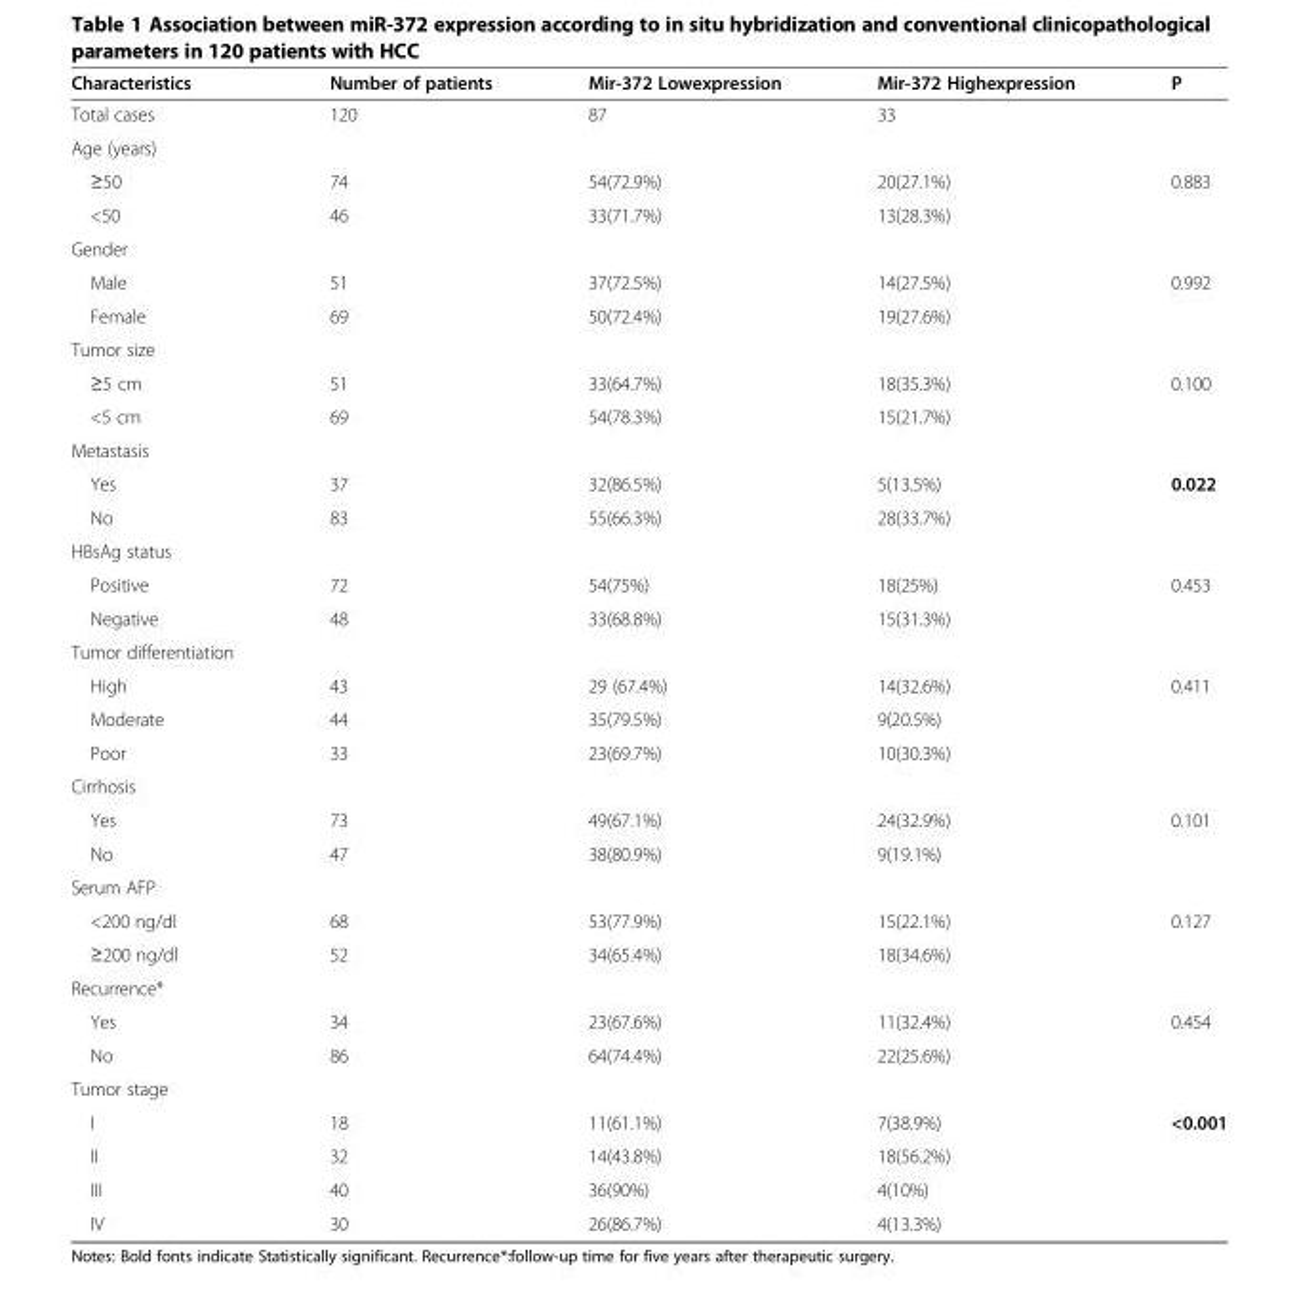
<table><thead><tr><td>Characteristics</td><td>Number of patients</td><td>Mir-372 Lowexpression</td><td>Mir-372 Highexpression</td><td>P</td></tr></thead><tbody><tr><td>Total cases</td><td>120</td><td>87</td><td>33</td><td></td></tr><tr><td colspan="5">Age (years)</td></tr><tr><td>≥50</td><td>74</td><td>54(72.9%)</td><td>20(27.1%)</td><td rowspan="2">0.883</td></tr><tr><td>&lt;50</td><td>46</td><td>33(71.7%)</td><td>13(28.3%)</td></tr><tr><td colspan="5">Gender</td></tr><tr><td>Male</td><td>51</td><td>37(72.5%)</td><td>14(27.5%)</td><td rowspan="2">0.992</td></tr><tr><td>Female</td><td>69</td><td>50(72.4%)</td><td>19(27.6%)</td></tr><tr><td colspan="5">Tumor size</td></tr><tr><td>≥5 cm</td><td>51</td><td>33(64.7%)</td><td>18(35.3%)</td><td rowspan="2">0.100</td></tr><tr><td>&lt;5 cm</td><td>69</td><td>54(78.3%)</td><td>15(21.7%)</td></tr><tr><td colspan="5">Metastasis</td></tr><tr><td>Yes</td><td>37</td><td>32(86.5%)</td><td>5(13.5%)</td><td rowspan="2">0.022</td></tr><tr><td>No</td><td>83</td><td>55(66.3%)</td><td>28(33.7%)</td></tr><tr><td colspan="5">HBsAg status</td></tr><tr><td>Positive</td><td>72</td><td>54(75%)</td><td>18(25%)</td><td rowspan="2">0.453</td></tr><tr><td>Negative</td><td>48</td><td>33(68.8%)</td><td>15(31.3%)</td></tr><tr><td colspan="5">Tumor differentiation</td></tr><tr><td>High</td><td>43</td><td>29 (67.4%)</td><td>14(32.6%)</td><td rowspan="3">0.411</td></tr><tr><td>Moderate</td><td>44</td><td>35(79.5%)</td><td>9(20.5%)</td></tr><tr><td>Poor</td><td>33</td><td>23(69.7%)</td><td>10(30.3%)</td></tr><tr><td colspan="5">Cirrhosis</td></tr><tr><td>Yes</td><td>73</td><td>49(67.1%)</td><td>24(32.9%)</td><td rowspan="2">0.101</td></tr><tr><td>No</td><td>47</td><td>38(80.9%)</td><td>9(19.1%)</td></tr><tr><td colspan="5">Serum AFP</td></tr><tr><td>&lt;200 ng/dl</td><td>68</td><td>53(77.9%)</td><td>15(22.1%)</td><td rowspan="2">0.127</td></tr><tr><td>≥200 ng/dl</td><td>52</td><td>34(65.4%)</td><td>18(34.6%)</td></tr><tr><td colspan="5">Recurrence*</td></tr><tr><td>Yes</td><td>34</td><td>23(67.6%)</td><td>11(32.4%)</td><td rowspan="2">0.454</td></tr><tr><td>No</td><td>86</td><td>64(74.4%)</td><td>22(25.6%)</td></tr><tr><td colspan="5">Tumor stage</td></tr><tr><td>I</td><td>18</td><td>11(61.1%)</td><td>7(38.9%)</td><td rowspan="4">&lt;0.001</td></tr><tr><td>II</td><td>32</td><td>14(43.8%)</td><td>18(56.2%)</td></tr><tr><td>III</td><td>40</td><td>36(90%)</td><td>4(10%)</td></tr><tr><td>IV</td><td>30</td><td>26(86.7%)</td><td>4(13.3%)</td></tr></tbody></table>